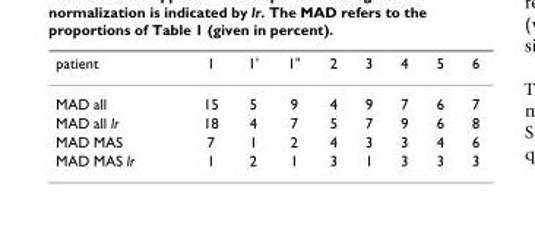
<table><thead><tr><td>patient</td><td>1</td><td>1&#x27;</td><td>1&quot;</td><td>2</td><td>3</td><td>4</td><td>5</td><td>6</td></tr></thead><tbody><tr><td>MAD all</td><td>15</td><td>5</td><td>9</td><td>4</td><td>9</td><td>7</td><td>6</td><td>7</td></tr><tr><td>MAD all lr</td><td>18</td><td>4</td><td>7</td><td>5</td><td>7</td><td>9</td><td>6</td><td>8</td></tr><tr><td>MAD MAS</td><td>7</td><td>1</td><td>2</td><td>4</td><td>3</td><td>3</td><td>4</td><td>6</td></tr><tr><td>MAD MAS lr</td><td>1</td><td>2</td><td>1</td><td>3</td><td>1</td><td>3</td><td>3</td><td>3</td></tr></tbody></table>